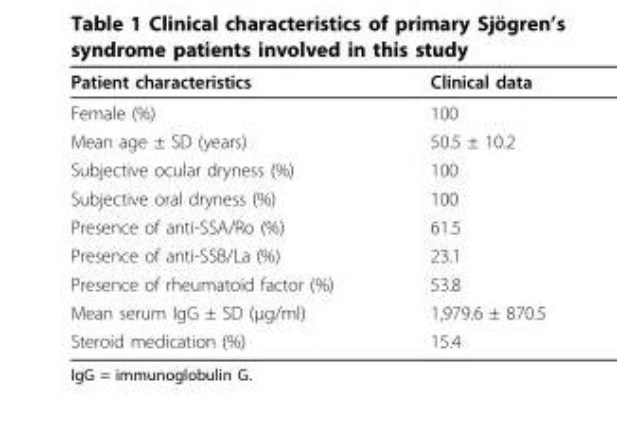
<table><thead><tr><td>Patient characteristics</td><td>Clinical data</td></tr></thead><tbody><tr><td>Female (%)</td><td>100</td></tr><tr><td>Mean age ± SD (years)</td><td>50.5 ± 10.2</td></tr><tr><td>Subjective ocular dryness (%)</td><td>100</td></tr><tr><td>Subjective oral dryness (%)</td><td>100</td></tr><tr><td>Presence of anti-SSA/Ro (%)</td><td>61.5</td></tr><tr><td>Presence of anti-SSB/La (%)</td><td>23.1</td></tr><tr><td>Presence of rheumatoid factor (%)</td><td>53.8</td></tr><tr><td>Mean serum IgG ± SD (μg/ml)</td><td>1,979.6 ± 870.5</td></tr><tr><td>Steroid medication (%)</td><td>15.4</td></tr></tbody></table>